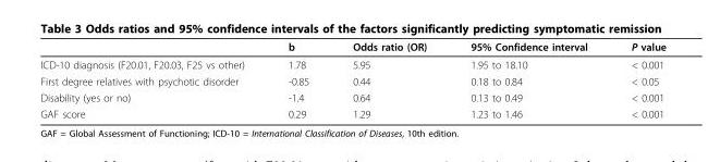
<table><thead><tr><td></td><td>b</td><td>Odds ratio (OR)</td><td>95% Confidence interval</td><td>P value</td></tr></thead><tbody><tr><td>ICD-10 diagnosis (F20.01, F20.03, F25 vs other)</td><td>1.78</td><td>5.95</td><td>1.95 to 18.10</td><td>&lt; 0.001</td></tr><tr><td>First degree relatives with psychotic disorder</td><td>-0.85</td><td>0.44</td><td>0.18 to 0.84</td><td>&lt; 0.05</td></tr><tr><td>Disability (yes or no)</td><td>-1.4</td><td>0.64</td><td>0.13 to 0.49</td><td>&lt; 0.001</td></tr><tr><td>GAF score</td><td>0.29</td><td>1.29</td><td>1.23 to 1.46</td><td>&lt; 0.001</td></tr></tbody></table>